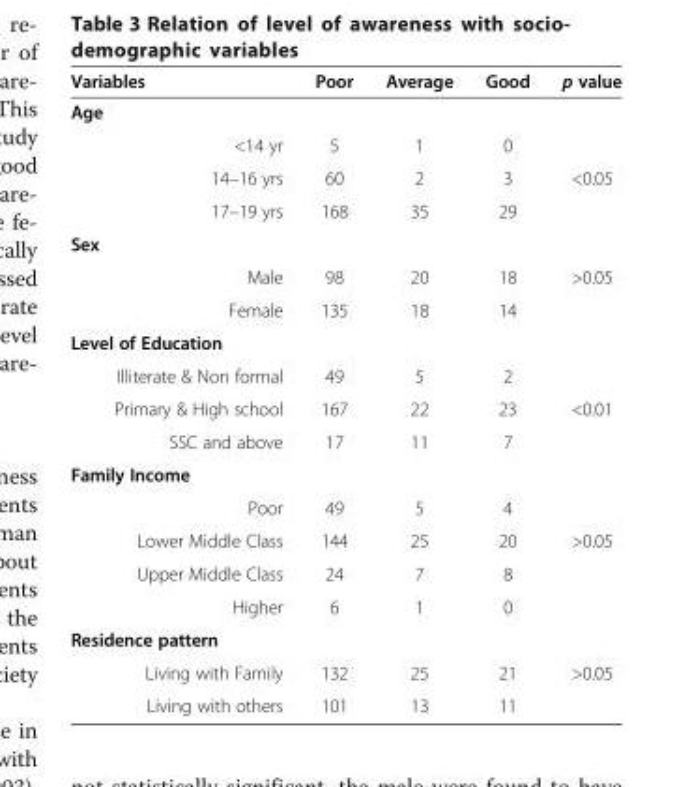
<table><thead><tr><td>Variables</td><td>Poor</td><td>Average</td><td>Good</td><td>p value</td></tr></thead><tbody><tr><td colspan="5">Age</td></tr><tr><td>&lt;14 yr</td><td>5</td><td>1</td><td>0</td><td></td></tr><tr><td>14–16 yrs</td><td>60</td><td>2</td><td>3</td><td>&lt;0.05</td></tr><tr><td>17–19 yrs</td><td>168</td><td>35</td><td>29</td><td></td></tr><tr><td colspan="5">Sex</td></tr><tr><td>Male</td><td>98</td><td>20</td><td>18</td><td>&gt;0.05</td></tr><tr><td>Female</td><td>135</td><td>18</td><td>14</td><td></td></tr><tr><td colspan="5">Level of Education</td></tr><tr><td>Illiterate &amp; Non formal</td><td>49</td><td>5</td><td>2</td><td></td></tr><tr><td>Primary &amp; High school</td><td>167</td><td>22</td><td>23</td><td>&lt;0.01</td></tr><tr><td>SSC and above</td><td>17</td><td>11</td><td>7</td><td></td></tr><tr><td colspan="5">Family Income</td></tr><tr><td>Poor</td><td>49</td><td>5</td><td>4</td><td></td></tr><tr><td>Lower Middle Class</td><td>144</td><td>25</td><td>20</td><td>&gt;0.05</td></tr><tr><td>Upper Middle Class</td><td>24</td><td>7</td><td>8</td><td></td></tr><tr><td>Higher</td><td>6</td><td>1</td><td>0</td><td></td></tr><tr><td colspan="5">Residence pattern</td></tr><tr><td>Living with Family</td><td>132</td><td>25</td><td>21</td><td>&gt;0.05</td></tr><tr><td>Living with others</td><td>101</td><td>13</td><td>11</td><td></td></tr></tbody></table>